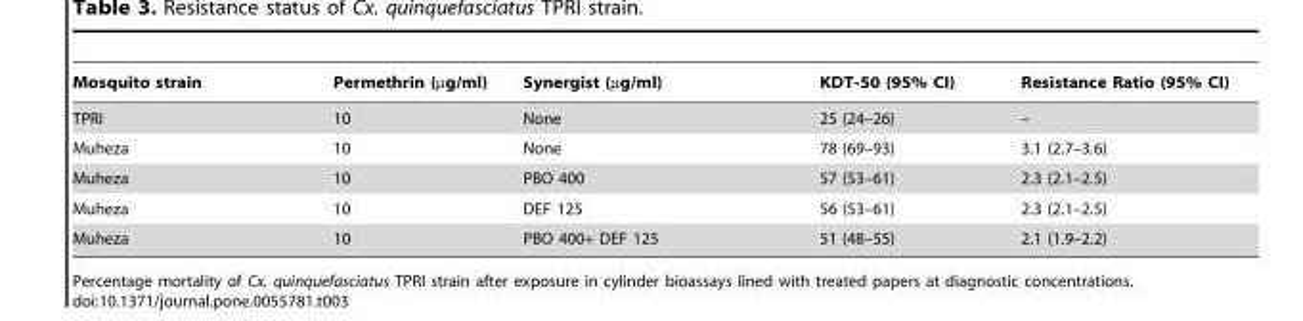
<table><thead><tr><td>Mosquito strain</td><td>Permethrin (µg/ml)</td><td>Synergist (µg/ml)</td><td>KDT-50 (95% CI)</td><td>Resistance Ratio (95% CI)</td></tr></thead><tbody><tr><td>TPRI</td><td>10</td><td>None</td><td>25 (24–26)</td><td>–</td></tr><tr><td>Muheza</td><td>10</td><td>None</td><td>78 (69–93)</td><td>3.1 (2.7–3.6)</td></tr><tr><td>Muheza</td><td>10</td><td>PBO 400</td><td>57 (53–61)</td><td>2.3 (2.1–2.5)</td></tr><tr><td>Muheza</td><td>10</td><td>DEF 125</td><td>56 (53–61)</td><td>2.3 (2.1–2.5)</td></tr><tr><td>Muheza</td><td>10</td><td>PBO 400+ DEF 125</td><td>51 (48–55)</td><td>2.1 (1.9–2.2)</td></tr></tbody></table>